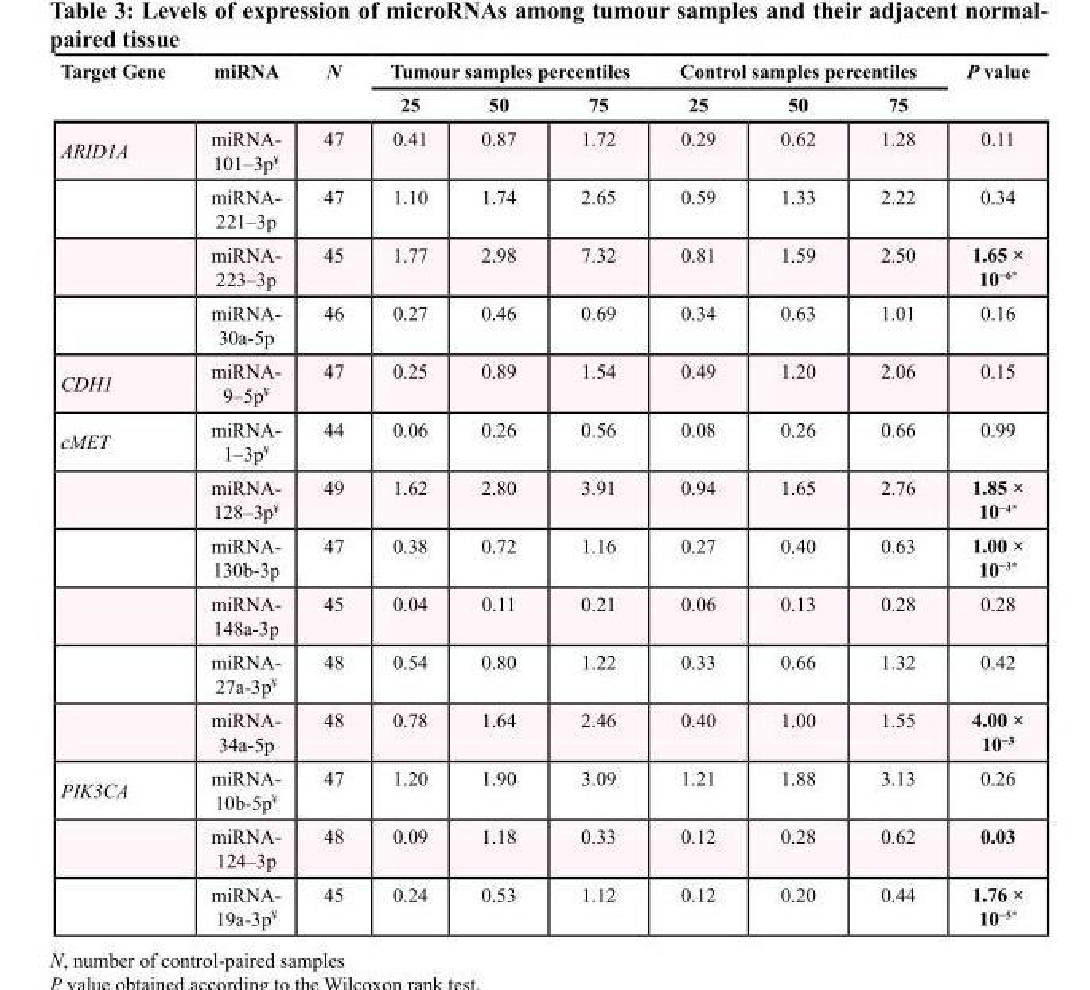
<table><thead><tr><td rowspan="2">Target Gene</td><td rowspan="2">miRNA</td><td rowspan="2">N</td><td colspan="3">Tumour samples percentiles</td><td colspan="3">Control samples percentiles</td><td rowspan="2">P value</td></tr><tr><td>25</td><td>50</td><td>75</td><td>25</td><td>50</td><td>75</td></tr></thead><tbody><tr><td rowspan="4">ARID1A</td><td>miRNA- 101–3p<sup>¥</sup></td><td>47</td><td>0.41</td><td>0.87</td><td>1.72</td><td>0.29</td><td>0.62</td><td>1.28</td><td>0.11</td></tr><tr><td>miRNA- 221–3p</td><td>47</td><td>1.10</td><td>1.74</td><td>2.65</td><td>0.59</td><td>1.33</td><td>2.22</td><td>0.34</td></tr><tr><td>miRNA- 223–3p</td><td>45</td><td>1.77</td><td>2.98</td><td>7.32</td><td>0.81</td><td>1.59</td><td>2.50</td><td>1.65 × 10<sup>−6</sup>*</td></tr><tr><td>miRNA- 30a5p</td><td>46</td><td>0.27</td><td>0.46</td><td>0.69</td><td>0.34</td><td>0.63</td><td>1.01</td><td>0.16</td></tr><tr><td>CDH1</td><td>miRNA- 9–5p<sup>¥</sup></td><td>47</td><td>0.25</td><td>0.89</td><td>1.54</td><td>0.49</td><td>1.20</td><td>2.06</td><td>0.15</td></tr><tr><td rowspan="6">cMET</td><td>miRNA- 1–3p<sup>¥</sup></td><td>44</td><td>0.06</td><td>0.26</td><td>0.56</td><td>0.08</td><td>0.26</td><td>0.66</td><td>0.99</td></tr><tr><td>miRNA- 128–3p<sup>¥</sup></td><td>49</td><td>1.62</td><td>2.80</td><td>3.91</td><td>0.94</td><td>1.65</td><td>2.76</td><td>1.85 × 10<sup>−4</sup>*</td></tr><tr><td>miRNA- 130b3p</td><td>47</td><td>0.38</td><td>0.72</td><td>1.16</td><td>0.27</td><td>0.40</td><td>0.63</td><td>1.00 × 10<sup>−3</sup>*</td></tr><tr><td>miRNA- 148a3p</td><td>45</td><td>0.04</td><td>0.11</td><td>0.21</td><td>0.06</td><td>0.13</td><td>0.28</td><td>0.28</td></tr><tr><td>miRNA- 27a-3p<sup>¥</sup></td><td>48</td><td>0.54</td><td>0.80</td><td>1.22</td><td>0.33</td><td>0.66</td><td>1.32</td><td>0.42</td></tr><tr><td>miRNA- 34a-5p</td><td>48</td><td>0.78</td><td>1.64</td><td>2.46</td><td>0.40</td><td>1.00</td><td>1.55</td><td>4.00 × 10<sup>−3</sup></td></tr><tr><td rowspan="3">PIK3CA</td><td>miRNA- 10b5p¥</td><td>47</td><td>1.20</td><td>1.90</td><td>3.09</td><td>1.21</td><td>1.88</td><td>3.13</td><td>0.26</td></tr><tr><td>miRNA- 124–3p</td><td>48</td><td>0.09</td><td>1.18</td><td>0.33</td><td>0.12</td><td>0.28</td><td>0.62</td><td>0.03</td></tr><tr><td>miRNA- 19a3p¥</td><td>45</td><td>0.24</td><td>0.53</td><td>1.12</td><td>0.12</td><td>0.20</td><td>0.44</td><td>1.76 × 10<sup>−5</sup>*</td></tr></tbody></table>